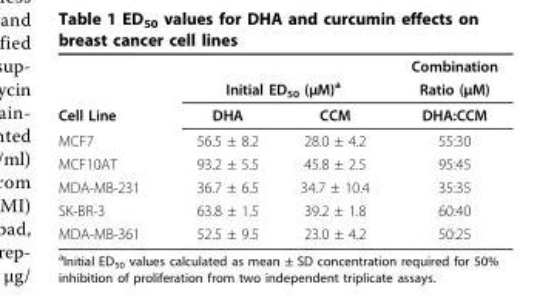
<table><thead><tr><td></td><td></td><td></td><td>Combination</td></tr></thead><tbody><tr><td></td><td colspan="2">Initial ED<sub>50</sub> (μM)<sup>a</sup></td><td>Ratio (μM)</td></tr><tr><td>Cell Line</td><td>DHA</td><td>CCM</td><td>DHA:CCM</td></tr><tr><td>MCF7</td><td>56.5 ± 8.2</td><td>28.0 ± 4.2</td><td>55:30</td></tr><tr><td>MCF10AT</td><td>93.2 ± 5.5</td><td>45.8 ± 2.5</td><td>95:45</td></tr><tr><td>MDA-MB-231</td><td>36.7 ± 6.5</td><td>34.7 ± 10.4</td><td>35:35</td></tr><tr><td>SK-BR-3</td><td>63.8 ± 1.5</td><td>39.2 ± 1.8</td><td>60:40</td></tr><tr><td>MDA-MB-361</td><td>52.5 ± 9.5</td><td>23.0 ± 4.2</td><td>50:25</td></tr></tbody></table>